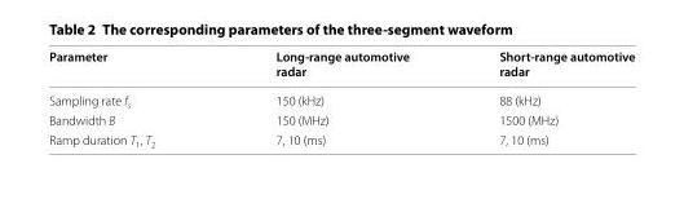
<table><thead><tr><td>Parameter</td><td>Long-range automotive radar</td><td>Short-range automotive radar</td></tr></thead><tbody><tr><td>Sampling rate f<sub>s</sub></td><td>150 (kHz)</td><td>88 (kHz)</td></tr><tr><td>Bandwidth B</td><td>150 (MHz)</td><td>1500 (MHz)</td></tr><tr><td>Ramp duration T<sub>1</sub>, T<sub>2</sub></td><td>7, 10 (ms)</td><td>7, 10 (ms)</td></tr></tbody></table>